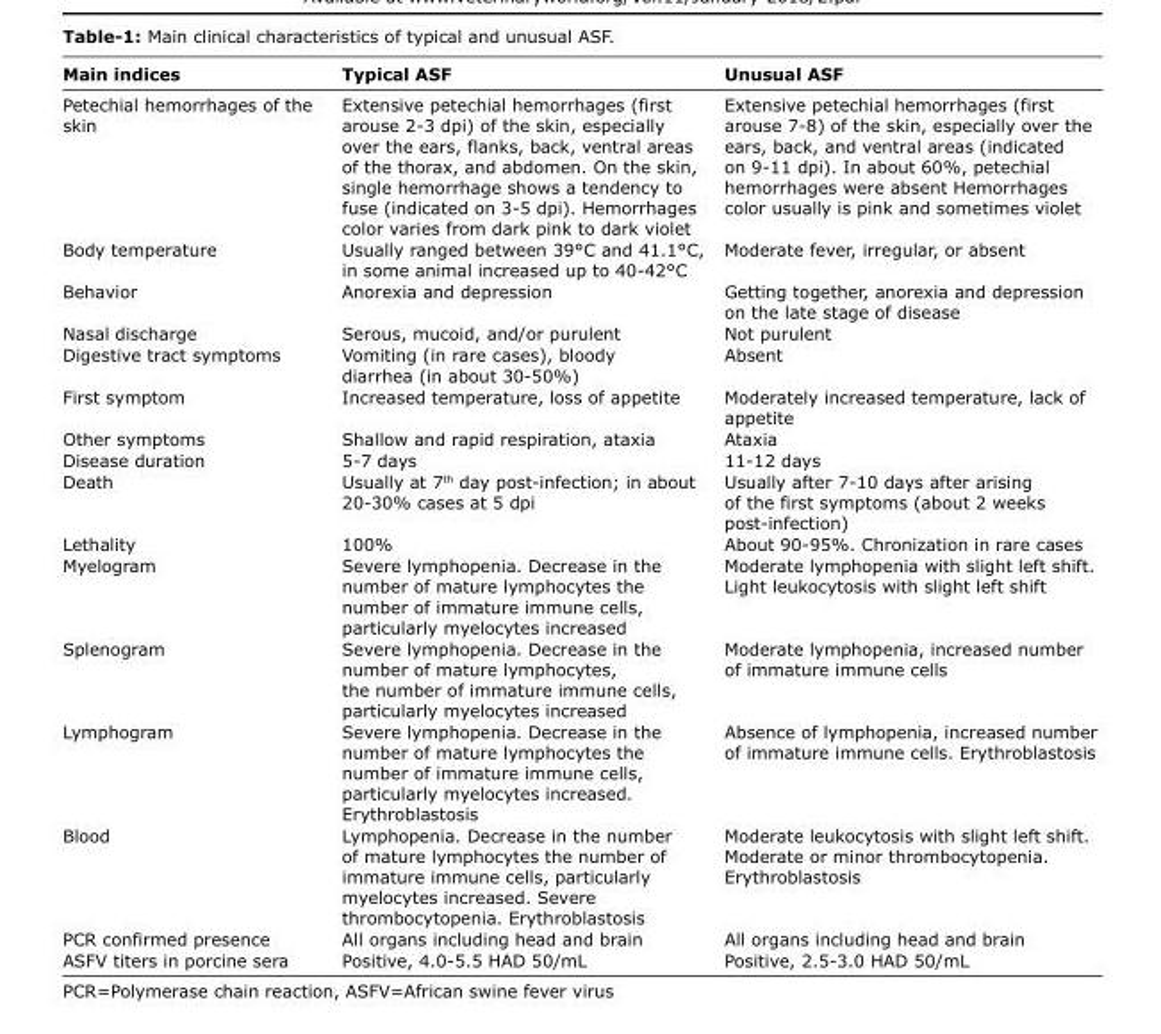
<table><thead><tr><td>Main indices</td><td>Typical ASF</td><td>Unusual ASF</td></tr></thead><tbody><tr><td>Petechial hemorrhages of the skin</td><td>Extensive petechial hemorrhages (first arouse 2-3 dpi) of the skin, especially over the ears, flanks, back, ventral areas of the thorax, and abdomen. On the skin, single hemorrhage shows a tendency to fuse (indicated on 3-5 dpi). Hemorrhages color varies from dark pink to dark violet</td><td>Extensive petechial hemorrhages (first arouse 7-8) of the skin, especially over the ears, back, and ventral areas (indicated on 9-11 dpi). In about 60%, petechial hemorrhages were absent Hemorrhages color usually is pink and sometimes violet</td></tr><tr><td>Body temperature</td><td>Usually ranged between 39°C and 41.1°C, in some animal increased up to 40‑42°С</td><td>Moderate fever, irregular, or absent</td></tr><tr><td>Behavior</td><td>Anorexia and depression</td><td>Getting together, anorexia and depression on the late stage of disease</td></tr><tr><td>Nasal discharge</td><td>Serous, mucoid, and/or purulent</td><td>Not purulent</td></tr><tr><td>Digestive tract symptoms</td><td>Vomiting (in rare cases), bloody diarrhea (in about 30-50%)</td><td>Absent</td></tr><tr><td>First symptom</td><td>Increased temperature, loss of appetite</td><td>Moderately increased temperature, lack of appetite</td></tr><tr><td>Other symptoms</td><td>Shallow and rapid respiration, ataxia</td><td>Ataxia</td></tr><tr><td>Disease duration</td><td>5-7 days</td><td>11-12 days</td></tr><tr><td>Death</td><td>Usually at 7th day post-infection; in about 20-30% cases at 5 dpi</td><td>Usually after 7-10 days after arising of the first symptoms (about 2 weeks post-infection)</td></tr><tr><td>Lethality</td><td>100%</td><td>About 90-95%. Chronization in rare cases</td></tr><tr><td>Myelogram</td><td>Severe lymphopenia. Decrease in the number of mature lymphocytes the number of immature immune cells, particularly myelocytes increased</td><td>Moderate lymphopenia with slight left shift. Light leukocytosis with slight left shift</td></tr><tr><td>Splenogram</td><td>Severe lymphopenia. Decrease in the number of mature lymphocytes, the number of immature immune cells, particularly myelocytes increased</td><td>Moderate lymphopenia, increased number of immature immune cells</td></tr><tr><td>Lymphogram</td><td>Severe lymphopenia. Decrease in the number of mature lymphocytes the number of immature immune cells, particularly myelocytes increased. Erythroblastosis</td><td>Absence of lymphopenia, increased number of immature immune cells. Erythroblastosis</td></tr><tr><td>Blood</td><td>Lymphopenia. Decrease in the number of mature lymphocytes the number of immature immune cells, particularly myelocytes increased. Severe thrombocytopenia. Erythroblastosis</td><td>Moderate leukocytosis with slight left shift. Moderate or minor thrombocytopenia. Erythroblastosis</td></tr><tr><td>PCR confirmed presence</td><td>All organs including head and brain</td><td>All organs including head and brain</td></tr><tr><td>ASFV titers in porcine sera</td><td>Positive, 4.0-5.5 HAD 50/mL</td><td>Positive, 2.5-3.0 HAD 50/mL</td></tr></tbody></table>